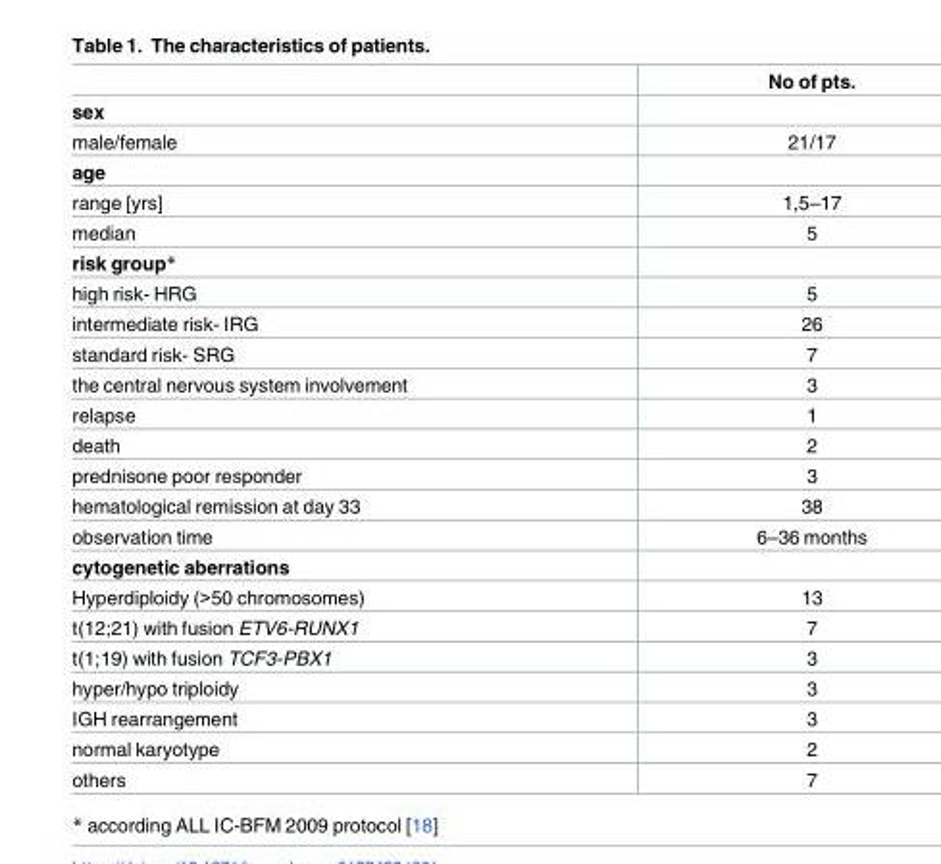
<table><thead><tr><td></td><td>No of pts.</td></tr></thead><tbody><tr><td colspan="2">sex</td></tr><tr><td>male/female</td><td>21/17</td></tr><tr><td colspan="2">age</td></tr><tr><td>range [yrs]</td><td>1,5–17</td></tr><tr><td>median</td><td>5</td></tr><tr><td colspan="2">risk group*</td></tr><tr><td>high risk- HRG</td><td>5</td></tr><tr><td>intermediate risk- IRG</td><td>26</td></tr><tr><td>standard risk- SRG</td><td>7</td></tr><tr><td>the central nervous system involvement</td><td>3</td></tr><tr><td>relapse</td><td>1</td></tr><tr><td>death</td><td>2</td></tr><tr><td>prednisone poor responder</td><td>3</td></tr><tr><td>hematological remission at day 33</td><td>38</td></tr><tr><td>observation time</td><td>6–36 months</td></tr><tr><td colspan="2">cytogenetic aberrations</td></tr><tr><td>Hyperdiploidy (&gt;50 chromosomes)</td><td>13</td></tr><tr><td>t(12;21) with fusion ETV6-RUNX1</td><td>7</td></tr><tr><td>t(1;19) with fusion TCF3-PBX1</td><td>3</td></tr><tr><td>hyper/hypo triploidy</td><td>3</td></tr><tr><td>IGH rearrangement</td><td>3</td></tr><tr><td>normal karyotype</td><td>2</td></tr><tr><td>others</td><td>7</td></tr></tbody></table>